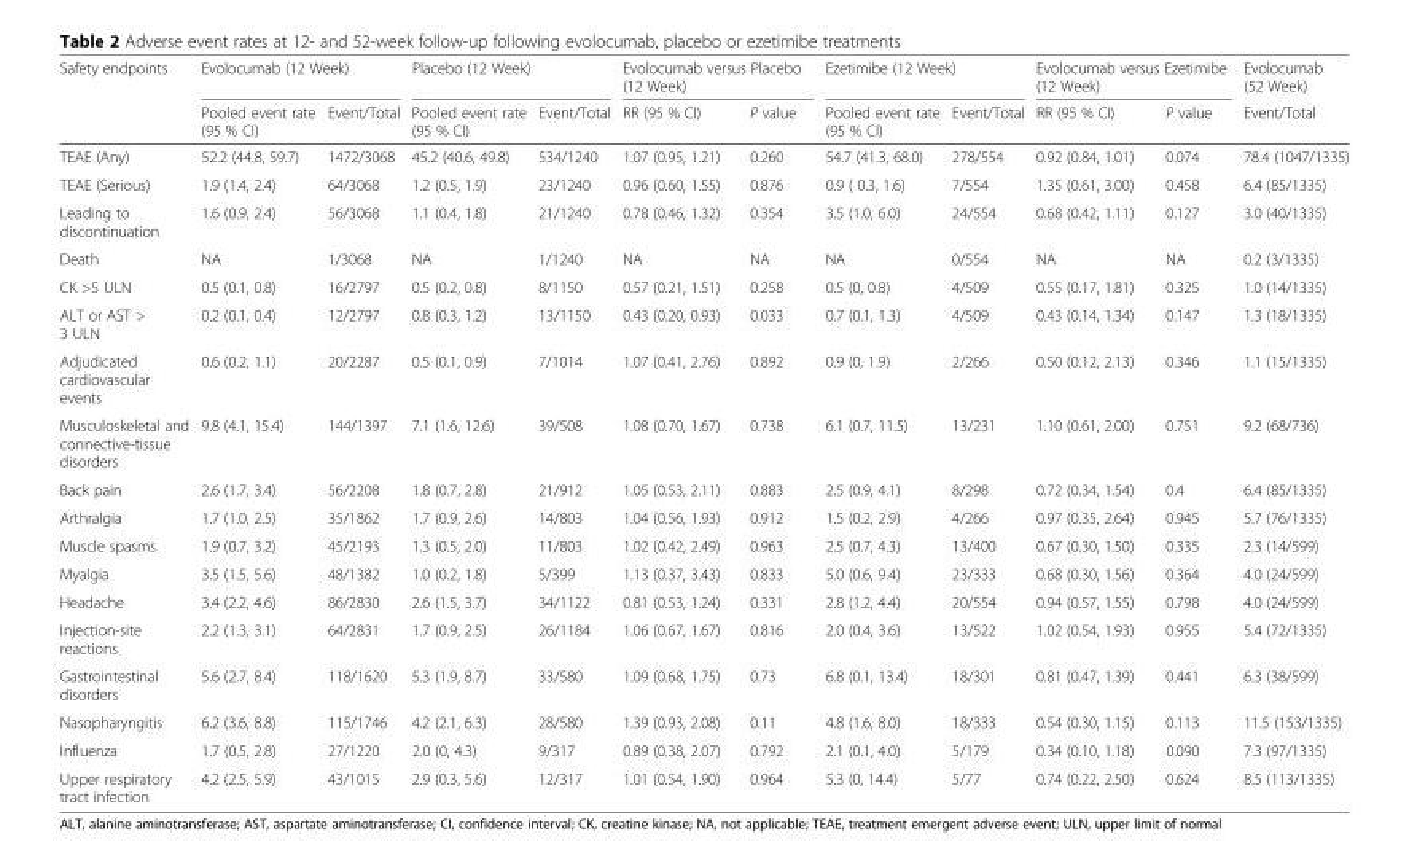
<table><thead><tr><td rowspan="2">Safety endpoints</td><td colspan="2">Evolocumab (12 Week)</td><td colspan="2">Placebo (12 Week)</td><td colspan="2">Evolocumab versus Placebo (12 Week)</td><td colspan="2">Ezetimibe (12 Week)</td><td colspan="2">Evolocumab versus Ezetimibe (12 Week)</td><td rowspan="2">Evolocumab (52 Week) Event/Total</td></tr><tr><td>Pooled event rate (95 % CI)</td><td>Event/Total</td><td>Pooled event rate (95 % CI)</td><td>Event/Total</td><td>RR (95 % CI)</td><td>P value</td><td>Pooled event rate (95 % CI)</td><td>Event/Total</td><td>RR (95 % CI)</td><td>P value</td></tr></thead><tbody><tr><td>TEAE (Any)</td><td>52.2 (44.8, 59.7)</td><td>1472/3068</td><td>45.2 (40.6, 49.8)</td><td>534/1240</td><td>1.07 (0.95, 1.21)</td><td>0.260</td><td>54.7 (41.3, 68.0)</td><td>278/554</td><td>0.92 (0.84, 1.01)</td><td>0.074</td><td>78.4 (1047/1335)</td></tr><tr><td>TEAE (Serious)</td><td>1.9 (1.4, 2.4)</td><td>64/3068</td><td>1.2 (0.5, 1.9)</td><td>23/1240</td><td>0.96 (0.60, 1.55)</td><td>0.876</td><td>0.9 ( 0.3, 1.6)</td><td>7/554</td><td>1.35 (0.61, 3.00)</td><td>0.458</td><td>6.4 (85/1335)</td></tr><tr><td>Leading to discontinuation</td><td>1.6 (0.9, 2.4)</td><td>56/3068</td><td>1.1 (0.4, 1.8)</td><td>21/1240</td><td>0.78 (0.46, 1.32)</td><td>0.354</td><td>3.5 (1.0, 6.0)</td><td>24/554</td><td>0.68 (0.42, 1.11)</td><td>0.127</td><td>3.0 (40/1335)</td></tr><tr><td>Death</td><td>NA</td><td>1/3068</td><td>NA</td><td>1/1240</td><td>NA</td><td>NA</td><td>NA</td><td>0/554</td><td>NA</td><td>NA</td><td>0.2 (3/1335)</td></tr><tr><td>CK &gt;5 ULN</td><td>0.5 (0.1, 0.8)</td><td>16/2797</td><td>0.5 (0.2, 0.8)</td><td>8/1150</td><td>0.57 (0.21, 1.51)</td><td>0.258</td><td>0.5 (0, 0.8)</td><td>4/509</td><td>0.55 (0.17, 1.81)</td><td>0.325</td><td>1.0 (14/1335)</td></tr><tr><td>ALT or AST &gt; 3 ULN</td><td>0.2 (0.1, 0.4)</td><td>12/2797</td><td>0.8 (0.3, 1.2)</td><td>13/1150</td><td>0.43 (0.20, 0.93)</td><td>0.033</td><td>0.7 (0.1, 1.3)</td><td>4/509</td><td>0.43 (0.14, 1.34)</td><td>0.147</td><td>1.3 (18/1335)</td></tr><tr><td>Adjudicated cardiovascular events</td><td>0.6 (0.2, 1.1)</td><td>20/2287</td><td>0.5 (0.1, 0.9)</td><td>7/1014</td><td>1.07 (0.41, 2.76)</td><td>0.892</td><td>0.9 (0, 1.9)</td><td>2/266</td><td>0.50 (0.12, 2.13)</td><td>0.346</td><td>1.1 (15/1335)</td></tr><tr><td>Musculoskeletal and connective-tissue disorders</td><td>9.8 (4.1, 15.4)</td><td>144/1397</td><td>7.1 (1.6, 12.6)</td><td>39/508</td><td>1.08 (0.70, 1.67)</td><td>0.738</td><td>6.1 (0.7, 11.5)</td><td>13/231</td><td>1.10 (0.61, 2.00)</td><td>0.751</td><td>9.2 (68/736)</td></tr><tr><td>Back pain</td><td>2.6 (1.7, 3.4)</td><td>56/2208</td><td>1.8 (0.7, 2.8)</td><td>21/912</td><td>1.05 (0.53, 2.11)</td><td>0.883</td><td>2.5 (0.9, 4.1)</td><td>8/298</td><td>0.72 (0.34, 1.54)</td><td>0.4</td><td>6.4 (85/1335)</td></tr><tr><td>Arthralgia</td><td>1.7 (1.0, 2.5)</td><td>35/1862</td><td>1.7 (0.9, 2.6)</td><td>14/803</td><td>1.04 (0.56, 1.93)</td><td>0.912</td><td>1.5 (0.2, 2.9)</td><td>4/266</td><td>0.97 (0.35, 2.64)</td><td>0.945</td><td>5.7 (76/1335)</td></tr><tr><td>Muscle spasms</td><td>1.9 (0.7, 3.2)</td><td>45/2193</td><td>1.3 (0.5, 2.0)</td><td>11/803</td><td>1.02 (0.42, 2.49)</td><td>0.963</td><td>2.5 (0.7, 4.3)</td><td>13/400</td><td>0.67 (0.30, 1.50)</td><td>0.335</td><td>2.3 (14/599)</td></tr><tr><td>Myalgia</td><td>3.5 (1.5, 5.6)</td><td>48/1382</td><td>1.0 (0.2, 1.8)</td><td>5/399</td><td>1.13 (0.37, 3.43)</td><td>0.833</td><td>5.0 (0.6, 9.4)</td><td>23/333</td><td>0.68 (0.30, 1.56)</td><td>0.364</td><td>4.0 (24/599)</td></tr><tr><td>Headache</td><td>3.4 (2.2, 4.6)</td><td>86/2830</td><td>2.6 (1.5, 3.7)</td><td>34/1122</td><td>0.81 (0.53, 1.24)</td><td>0.331</td><td>2.8 (1.2, 4.4)</td><td>20/554</td><td>0.94 (0.57, 1.55)</td><td>0.798</td><td>4.0 (24/599)</td></tr><tr><td>Injection-site reactions</td><td>2.2 (1.3, 3.1)</td><td>64/2831</td><td>1.7 (0.9, 2.5)</td><td>26/1184</td><td>1.06 (0.67, 1.67)</td><td>0.816</td><td>2.0 (0.4, 3.6)</td><td>13/522</td><td>1.02 (0.54, 1.93)</td><td>0.955</td><td>5.4 (72/1335)</td></tr><tr><td>Gastrointestinal disorders</td><td>5.6 (2.7, 8.4)</td><td>118/1620</td><td>5.3 (1.9, 8.7)</td><td>33/580</td><td>1.09 (0.68, 1.75)</td><td>0.73</td><td>6.8 (0.1, 13.4)</td><td>18/301</td><td>0.81 (0.47, 1.39)</td><td>0.441</td><td>6.3 (38/599)</td></tr><tr><td>Nasopharyngitis</td><td>6.2 (3.6, 8.8)</td><td>115/1746</td><td>4.2 (2.1, 6.3)</td><td>28/580</td><td>1.39 (0.93, 2.08)</td><td>0.11</td><td>4.8 (1.6, 8.0)</td><td>18/333</td><td>0.54 (0.30, 1.15)</td><td>0.113</td><td>11.5 (153/1335)</td></tr><tr><td>Influenza</td><td>1.7 (0.5, 2.8)</td><td>27/1220</td><td>2.0 (0, 4.3)</td><td>9/317</td><td>0.89 (0.38, 2.07)</td><td>0.792</td><td>2.1 (0.1, 4.0)</td><td>5/179</td><td>0.34 (0.10, 1.18)</td><td>0.090</td><td>7.3 (97/1335)</td></tr><tr><td>Upper respiratory tract infection</td><td>4.2 (2.5, 5.9)</td><td>43/1015</td><td>2.9 (0.3, 5.6)</td><td>12/317</td><td>1.01 (0.54, 1.90)</td><td>0.964</td><td>5.3 (0, 14.4)</td><td>5/77</td><td>0.74 (0.22, 2.50)</td><td>0.624</td><td>8.5 (113/1335)</td></tr></tbody></table>